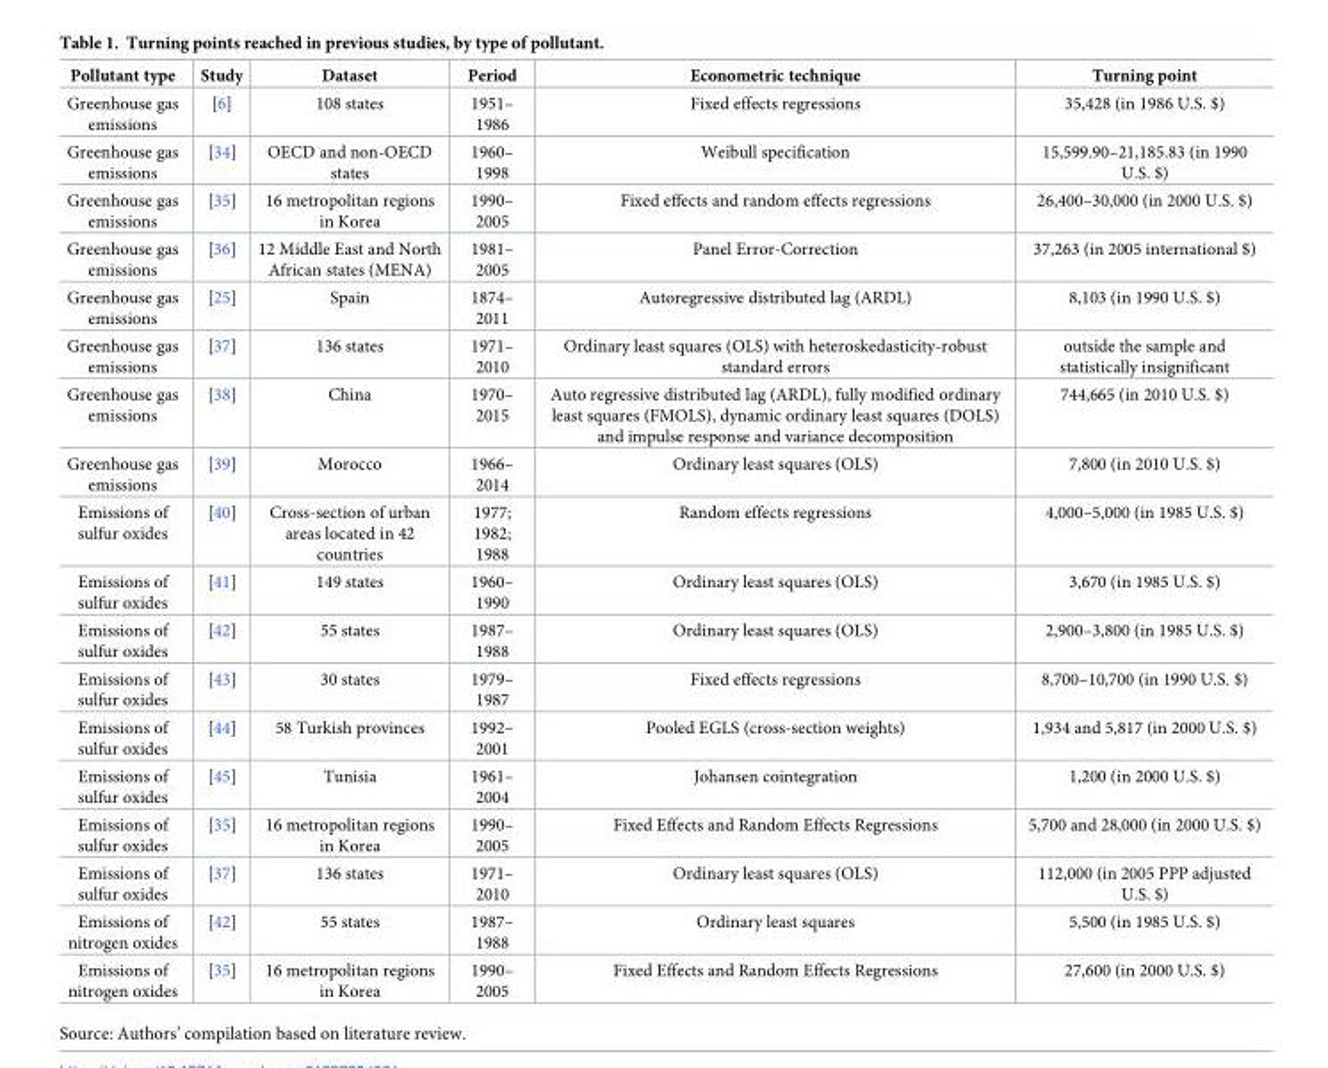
<table><thead><tr><td>Pollutant type</td><td>Study</td><td>Dataset</td><td>Period</td><td>Econometric technique</td><td>Turning point</td></tr></thead><tbody><tr><td>Greenhouse gas emissions</td><td>[6]</td><td>108 states</td><td>1951– 1986</td><td>Fixed effects regressions</td><td>35,428 (in 1986 U.S. $)</td></tr><tr><td>Greenhouse gas emissions</td><td>[34]</td><td>OECD and non-OECD states</td><td>1960– 1998</td><td>Weibull specification</td><td>15,599.90–21,185.83 (in 1990 U.S. $)</td></tr><tr><td>Greenhouse gas emissions</td><td>[35]</td><td>16 metropolitan regions in Korea</td><td>1990– 2005</td><td>Fixed effects and random effects regressions</td><td>26,400–30,000 (in 2000 U.S. $)</td></tr><tr><td>Greenhouse gas emissions</td><td>[36]</td><td>12 Middle East and North African states (MENA)</td><td>1981– 2005</td><td>Panel Error-Correction</td><td>37,263 (in 2005 international $)</td></tr><tr><td>Greenhouse gas emissions</td><td>[25]</td><td>Spain</td><td>1874– 2011</td><td>Autoregressive distributed lag (ARDL)</td><td>8,103 (in 1990 U.S. $)</td></tr><tr><td>Greenhouse gas emissions</td><td>[37]</td><td>136 states</td><td>1971– 2010</td><td>Ordinary least squares (OLS) with heteroskedasticity-robust standard errors</td><td>outside the sample and statistically insignificant</td></tr><tr><td>Greenhouse gas emissions</td><td>[38]</td><td>China</td><td>1970– 2015</td><td>Auto regressive distributed lag (ARDL), fully modified ordinary least squares (FMOLS), dynamic ordinary least squares (DOLS) and impulse response and variance decomposition</td><td>744,665 (in 2010 U.S. $)</td></tr><tr><td>Greenhouse gas emissions</td><td>[39]</td><td>Morocco</td><td>1966– 2014</td><td>Ordinary least squares (OLS)</td><td>7,800 (in 2010 U.S. $)</td></tr><tr><td>Emissions of sulfur oxides</td><td>[40]</td><td>Cross-section of urban areas located in 42 countries</td><td>1977; 1982; 1988</td><td>Random effects regressions</td><td>4,000–5,000 (in 1985 U.S. $)</td></tr><tr><td>Emissions of sulfur oxides</td><td>[41]</td><td>149 states</td><td>1960– 1990</td><td>Ordinary least squares (OLS)</td><td>3,670 (in 1985 U.S. $)</td></tr><tr><td>Emissions of sulfur oxides</td><td>[42]</td><td>55 states</td><td>1987– 1988</td><td>Ordinary least squares (OLS)</td><td>2,900–3,800 (in 1985 U.S. $)</td></tr><tr><td>Emissions of sulfur oxides</td><td>[43]</td><td>30 states</td><td>1979– 1987</td><td>Fixed effects regressions</td><td>8,700–10,700 (in 1990 U.S. $)</td></tr><tr><td>Emissions of sulfur oxides</td><td>[44]</td><td>58 Turkish provinces</td><td>1992– 2001</td><td>Pooled EGLS (cross-section weights)</td><td>1,934 and 5,817 (in 2000 U.S. $)</td></tr><tr><td>Emissions of sulfur oxides</td><td>[45]</td><td>Tunisia</td><td>1961– 2004</td><td>Johansen cointegration</td><td>1,200 (in 2000 U.S. $)</td></tr><tr><td>Emissions of sulfur oxides</td><td>[35]</td><td>16 metropolitan regions in Korea</td><td>1990– 2005</td><td>Fixed Effects and Random Effects Regressions</td><td>5,700 and 28,000 (in 2000 U.S. $)</td></tr><tr><td>Emissions of sulfur oxides</td><td>[37]</td><td>136 states</td><td>1971– 2010</td><td>Ordinary least squares (OLS)</td><td>112,000 (in 2005 PPP adjusted U.S. $)</td></tr><tr><td>Emissions of nitrogen oxides</td><td>[42]</td><td>55 states</td><td>1987– 1988</td><td>Ordinary least squares</td><td>5,500 (in 1985 U.S. $)</td></tr><tr><td>Emissions of nitrogen oxides</td><td>[35]</td><td>16 metropolitan regions in Korea</td><td>1990– 2005</td><td>Fixed Effects and Random Effects Regressions</td><td>27,600 (in 2000 U.S. $)</td></tr></tbody></table>